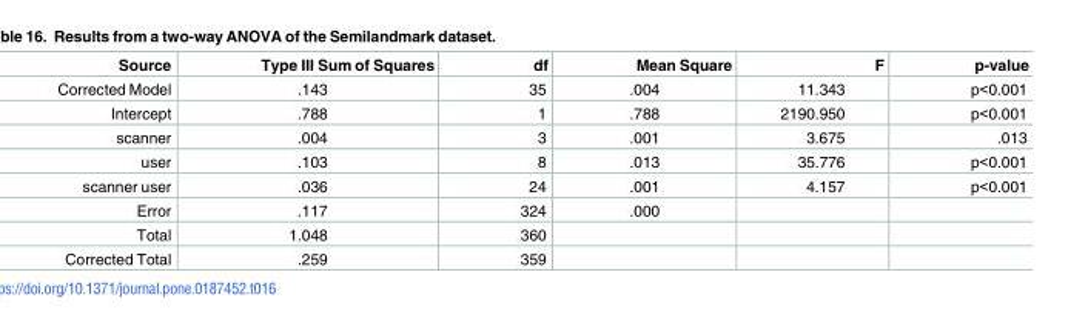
<table><thead><tr><td>Source</td><td>Type III Sum of Squares</td><td>df</td><td>Mean Square</td><td>F</td><td>p-value</td></tr></thead><tbody><tr><td>Corrected Model</td><td>.143</td><td>35</td><td>.004</td><td>11.343</td><td>p&lt;0.001</td></tr><tr><td>Intercept</td><td>.788</td><td>1</td><td>.788</td><td>2190.950</td><td>p&lt;0.001</td></tr><tr><td>scanner</td><td>.004</td><td>3</td><td>.001</td><td>3.675</td><td>.013</td></tr><tr><td>user</td><td>.103</td><td>8</td><td>.013</td><td>35.776</td><td>p&lt;0.001</td></tr><tr><td>scanner user</td><td>.036</td><td>24</td><td>.001</td><td>4.157</td><td>p&lt;0.001</td></tr><tr><td>Error</td><td>.117</td><td>324</td><td>.000</td><td></td><td></td></tr><tr><td>Total</td><td>1.048</td><td>360</td><td></td><td></td><td></td></tr><tr><td>Corrected Total</td><td>.259</td><td>359</td><td></td><td></td><td></td></tr></tbody></table>